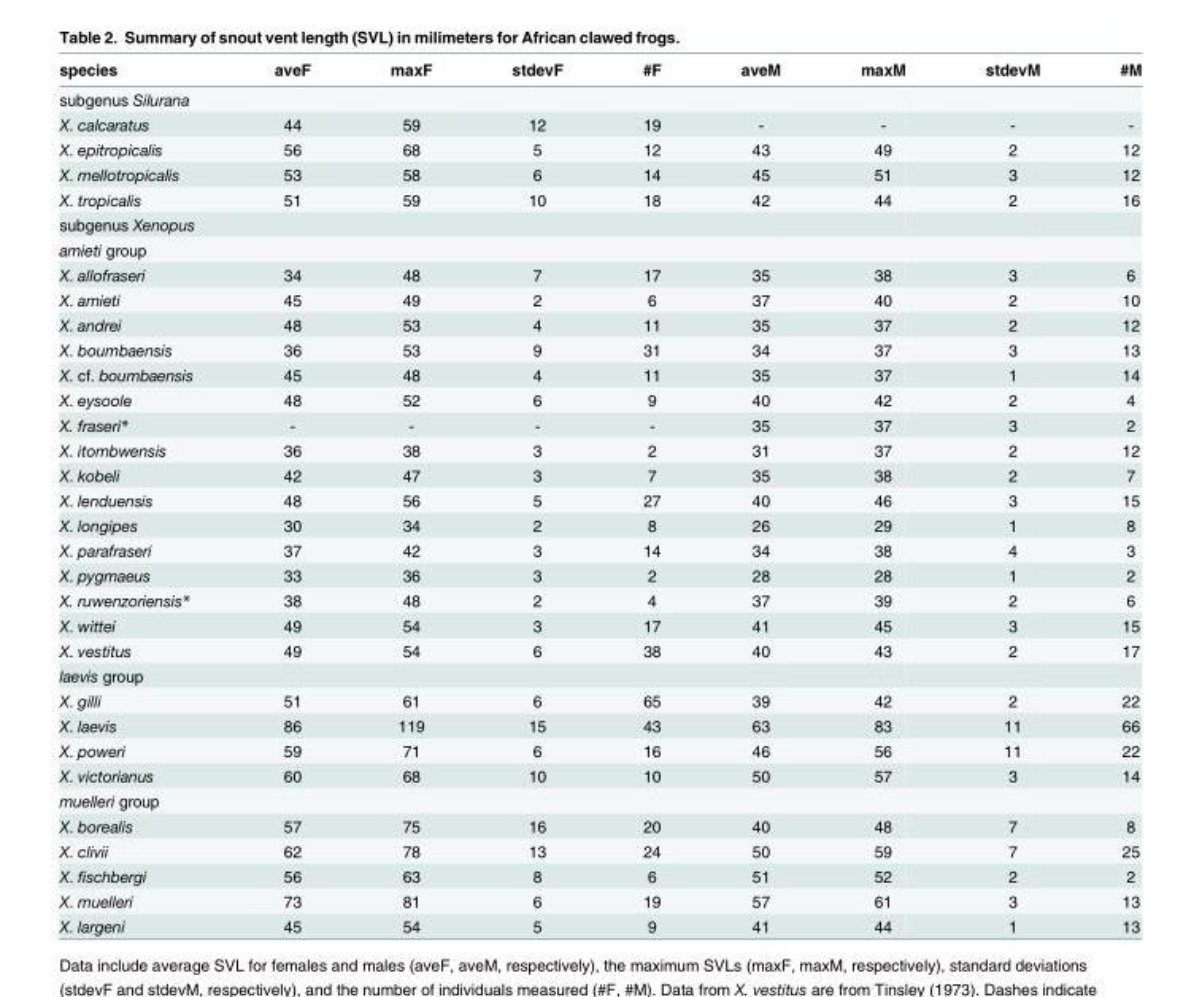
<table><thead><tr><td>species</td><td>aveF</td><td>maxF</td><td>stdevF</td><td>#F</td><td>aveM</td><td>maxM</td><td>stdevM</td><td>#M</td></tr></thead><tbody><tr><td colspan="9">subgenus Silurana</td></tr><tr><td>X. calcaratus</td><td>44</td><td>59</td><td>12</td><td>19</td><td>-</td><td>-</td><td>-</td><td>-</td></tr><tr><td>X. epitropicalis</td><td>56</td><td>68</td><td>5</td><td>12</td><td>43</td><td>49</td><td>2</td><td>12</td></tr><tr><td>X. mellotropicalis</td><td>53</td><td>58</td><td>6</td><td>14</td><td>45</td><td>51</td><td>3</td><td>12</td></tr><tr><td>X. tropicalis</td><td>51</td><td>59</td><td>10</td><td>18</td><td>42</td><td>44</td><td>2</td><td>16</td></tr><tr><td colspan="9">subgenus Xenopus</td></tr><tr><td colspan="9">amieti group</td></tr><tr><td>X. allofraseri</td><td>34</td><td>48</td><td>7</td><td>17</td><td>35</td><td>38</td><td>3</td><td>6</td></tr><tr><td>X. amieti</td><td>45</td><td>49</td><td>2</td><td>6</td><td>37</td><td>40</td><td>2</td><td>10</td></tr><tr><td>X. andrei</td><td>48</td><td>53</td><td>4</td><td>11</td><td>35</td><td>37</td><td>2</td><td>12</td></tr><tr><td>X. boumbaensis</td><td>36</td><td>53</td><td>9</td><td>31</td><td>34</td><td>37</td><td>3</td><td>13</td></tr><tr><td>X. cf. boumbaensis</td><td>45</td><td>48</td><td>4</td><td>11</td><td>35</td><td>37</td><td>1</td><td>14</td></tr><tr><td>X. eysoole</td><td>48</td><td>52</td><td>6</td><td>9</td><td>40</td><td>42</td><td>2</td><td>4</td></tr><tr><td>X. fraseri*</td><td>-</td><td>-</td><td>-</td><td>-</td><td>35</td><td>37</td><td>3</td><td>2</td></tr><tr><td>X. itombwensis</td><td>36</td><td>38</td><td>3</td><td>2</td><td>31</td><td>37</td><td>2</td><td>12</td></tr><tr><td>X. kobeli</td><td>42</td><td>47</td><td>3</td><td>7</td><td>35</td><td>38</td><td>2</td><td>7</td></tr><tr><td>X. lenduensis</td><td>48</td><td>56</td><td>5</td><td>27</td><td>40</td><td>46</td><td>3</td><td>15</td></tr><tr><td>X. longipes</td><td>30</td><td>34</td><td>2</td><td>8</td><td>26</td><td>29</td><td>1</td><td>8</td></tr><tr><td>X. parafraseri</td><td>37</td><td>42</td><td>3</td><td>14</td><td>34</td><td>38</td><td>4</td><td>3</td></tr><tr><td>X. pygmaeus</td><td>33</td><td>36</td><td>3</td><td>2</td><td>28</td><td>28</td><td>1</td><td>2</td></tr><tr><td>X. ruwenzoriensis*</td><td>38</td><td>48</td><td>2</td><td>4</td><td>37</td><td>39</td><td>2</td><td>6</td></tr><tr><td>X. wittei</td><td>49</td><td>54</td><td>3</td><td>17</td><td>41</td><td>45</td><td>3</td><td>15</td></tr><tr><td>X. vestitus</td><td>49</td><td>54</td><td>6</td><td>38</td><td>40</td><td>43</td><td>2</td><td>17</td></tr><tr><td colspan="9">laevis group</td></tr><tr><td>X. gilli</td><td>51</td><td>61</td><td>6</td><td>65</td><td>39</td><td>42</td><td>2</td><td>22</td></tr><tr><td>X. laevis</td><td>86</td><td>119</td><td>15</td><td>43</td><td>63</td><td>83</td><td>11</td><td>66</td></tr><tr><td>X. poweri</td><td>59</td><td>71</td><td>6</td><td>16</td><td>46</td><td>56</td><td>11</td><td>22</td></tr><tr><td>X. victorianus</td><td>60</td><td>68</td><td>10</td><td>10</td><td>50</td><td>57</td><td>3</td><td>14</td></tr><tr><td colspan="9">muelleri group</td></tr><tr><td>X. borealis</td><td>57</td><td>75</td><td>16</td><td>20</td><td>40</td><td>48</td><td>7</td><td>8</td></tr><tr><td>X. clivii</td><td>62</td><td>78</td><td>13</td><td>24</td><td>50</td><td>59</td><td>7</td><td>25</td></tr><tr><td>X. fischbergi</td><td>56</td><td>63</td><td>8</td><td>6</td><td>51</td><td>52</td><td>2</td><td>2</td></tr><tr><td>X. muelleri</td><td>73</td><td>81</td><td>6</td><td>19</td><td>57</td><td>61</td><td>3</td><td>13</td></tr><tr><td>X. largeni</td><td>45</td><td>54</td><td>5</td><td>9</td><td>41</td><td>44</td><td>1</td><td>13</td></tr></tbody></table>